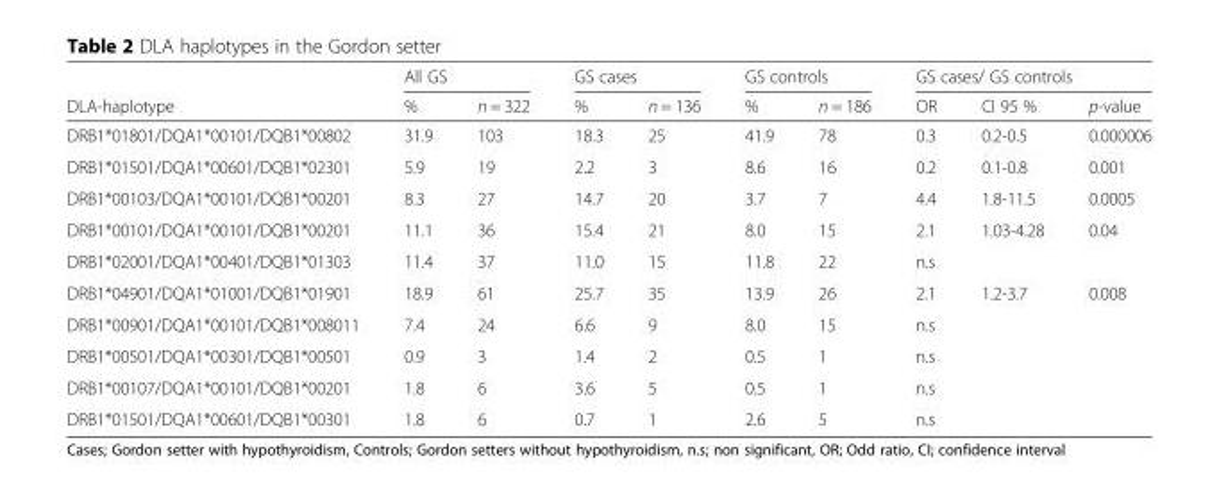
<table><thead><tr><td rowspan="2">DLA-haplotype</td><td colspan="2">All GS</td><td colspan="2">GS cases</td><td colspan="2">GS controls</td><td colspan="3">GS cases/ GS controls</td></tr><tr><td>%</td><td>n = 322</td><td>%</td><td>n = 136</td><td>%</td><td>n = 186</td><td>OR</td><td>CI 95 %</td><td>p-value</td></tr></thead><tbody><tr><td>DRB1*01801/DQA1*00101/DQB1*00802</td><td>31.9</td><td>103</td><td>18.3</td><td>25</td><td>41.9</td><td>78</td><td>0.3</td><td>0.2-0.5</td><td>0.000006</td></tr><tr><td>DRB1*01501/DQA1*00601/DQB1*02301</td><td>5.9</td><td>19</td><td>2.2</td><td>3</td><td>8.6</td><td>16</td><td>0.2</td><td>0.1-0.8</td><td>0.001</td></tr><tr><td>DRB1*00103/DQA1*00101/DQB1*00201</td><td>8.3</td><td>27</td><td>14.7</td><td>20</td><td>3.7</td><td>7</td><td>4.4</td><td>1.8-11.5</td><td>0.0005</td></tr><tr><td>DRB1*00101/DQA1*00101/DQB1*00201</td><td>11.1</td><td>36</td><td>15.4</td><td>21</td><td>8.0</td><td>15</td><td>2.1</td><td>1.03-4.28</td><td>0.04</td></tr><tr><td>DRB1*02001/DQA1*00401/DQB1*01303</td><td>11.4</td><td>37</td><td>11.0</td><td>15</td><td>11.8</td><td>22</td><td>n.s</td><td></td><td></td></tr><tr><td>DRB1*04901/DQA1*01001/DQB1*01901</td><td>18.9</td><td>61</td><td>25.7</td><td>35</td><td>13.9</td><td>26</td><td>2.1</td><td>1.2-3.7</td><td>0.008</td></tr><tr><td>DRB1*00901/DQA1*00101/DQB1*008011</td><td>7.4</td><td>24</td><td>6.6</td><td>9</td><td>8.0</td><td>15</td><td>n.s</td><td></td><td></td></tr><tr><td>DRB1*00501/DQA1*00301/DQB1*00501</td><td>0.9</td><td>3</td><td>1.4</td><td>2</td><td>0.5</td><td>1</td><td>n.s</td><td></td><td></td></tr><tr><td>DRB1*00107/DQA1*00101/DQB1*00201</td><td>1.8</td><td>6</td><td>3.6</td><td>5</td><td>0.5</td><td>1</td><td>n.s</td><td></td><td></td></tr><tr><td>DRB1*01501/DQA1*00601/DQB1*00301</td><td>1.8</td><td>6</td><td>0.7</td><td>1</td><td>2.6</td><td>5</td><td>n.s</td><td></td><td></td></tr></tbody></table>